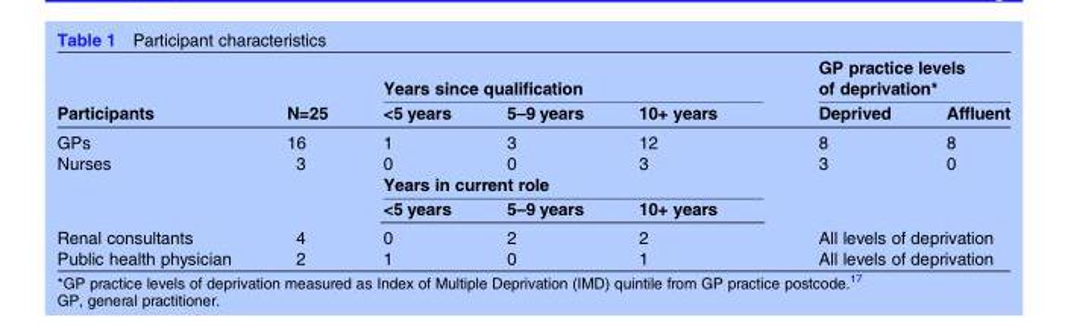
<table><thead><tr><td rowspan="2">Participants</td><td rowspan="2">N=25</td><td colspan="3">Years since qualification</td><td colspan="2">GP practice levels of deprivation*</td></tr><tr><td>&lt;5 years</td><td>5–9 years</td><td>10+ years</td><td>Deprived</td><td>Affluent</td></tr></thead><tbody><tr><td>GPs</td><td>16</td><td>1</td><td>3</td><td>12</td><td>8</td><td>8</td></tr><tr><td rowspan="3">Nurses</td><td>3</td><td>0</td><td>0</td><td>3</td><td>3</td><td>0</td></tr><tr><td></td><td colspan="3">Years in current role</td><td></td><td></td></tr><tr><td></td><td>&lt;5 years</td><td>5–9 years</td><td>10+ years</td><td colspan="2"></td></tr><tr><td>Renal consultants</td><td>4</td><td>0</td><td>2</td><td>2</td><td colspan="2">All levels of deprivation</td></tr><tr><td>Public health physician</td><td>2</td><td>1</td><td>0</td><td>1</td><td colspan="2">All levels of deprivation</td></tr></tbody></table>